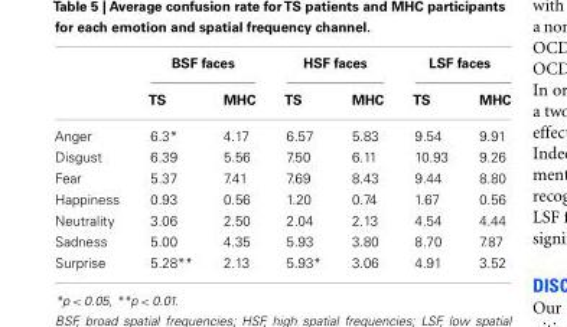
<table><thead><tr><td rowspan="2"></td><td colspan="2">BSF faces</td><td colspan="2">HSF faces</td><td colspan="2">LSF faces</td></tr><tr><td>TS</td><td>MHC</td><td>TS</td><td>MHC</td><td>TS</td><td>MHC</td></tr></thead><tbody><tr><td>Anger</td><td>6.3*</td><td>4.17</td><td>6.57</td><td>5.83</td><td>9.54</td><td>9.91</td></tr><tr><td>Disgust</td><td>6.39</td><td>5.56</td><td>7.50</td><td>6.11</td><td>10.93</td><td>9.26</td></tr><tr><td>Fear</td><td>5.37</td><td>7.41</td><td>7.69</td><td>8.43</td><td>9.44</td><td>8.80</td></tr><tr><td>Happiness</td><td>0.93</td><td>0.56</td><td>1.20</td><td>0.74</td><td>1.67</td><td>0.56</td></tr><tr><td>Neutrality</td><td>3.06</td><td>2.50</td><td>2.04</td><td>2.13</td><td>4.54</td><td>4.44</td></tr><tr><td>Sadness</td><td>5.00</td><td>4.35</td><td>5.93</td><td>3.80</td><td>8.70</td><td>7.87</td></tr><tr><td>Surprise</td><td>5.28**</td><td>2.13</td><td>5.93*</td><td>3.06</td><td>4.91</td><td>3.52</td></tr></tbody></table>